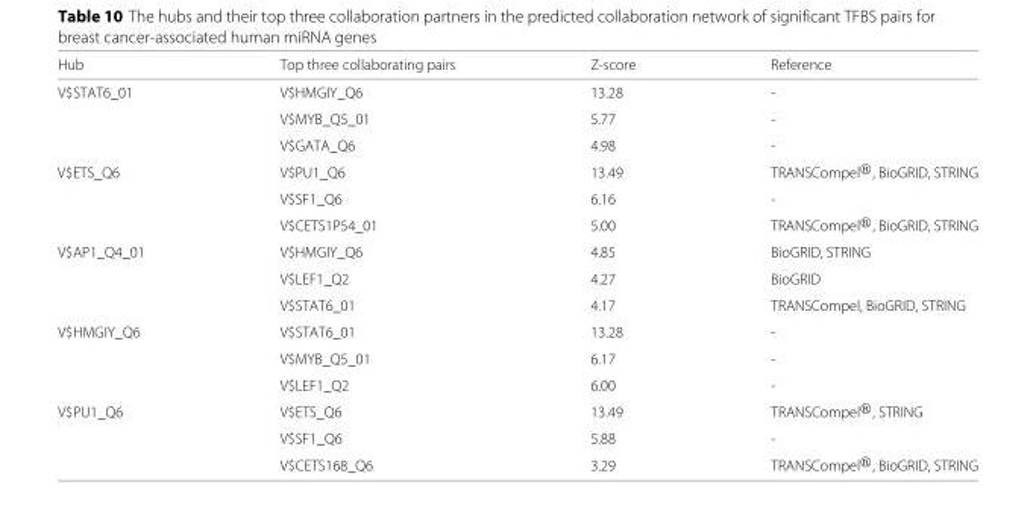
<table><thead><tr><td>Hub</td><td>Top three collaborating pairs</td><td>Z-score</td><td>Reference</td></tr></thead><tbody><tr><td rowspan="3">V$STAT6_01</td><td>V$HMGIY_Q6</td><td>13.28</td><td>-</td></tr><tr><td>V$MYB_Q5_01</td><td>5.77</td><td>-</td></tr><tr><td>V$GATA_Q6</td><td>4.98</td><td>-</td></tr><tr><td rowspan="3">V$ETS_Q6</td><td>V$PU1_Q6</td><td>13.49</td><td>TRANSCompel®, BioGRID, STRING</td></tr><tr><td>V$SF1_Q6</td><td>6.16</td><td>-</td></tr><tr><td>V$CETS1P54_01</td><td>5.00</td><td>TRANSCompel®, BioGRID, STRING</td></tr><tr><td rowspan="3">V$AP1_Q4_01</td><td>V$HMGIY_Q6</td><td>4.85</td><td>BioGRID, STRING</td></tr><tr><td>V$LEF1_Q2</td><td>4.27</td><td>BioGRID</td></tr><tr><td>V$STAT6_01</td><td>4.17</td><td>TRANSCompel, BioGRID, STRING</td></tr><tr><td rowspan="3">V$HMGIY_Q6</td><td>V$STAT6_01</td><td>13.28</td><td>-</td></tr><tr><td>V$MYB_Q5_01</td><td>6.17</td><td>-</td></tr><tr><td>V$LEF1_Q2</td><td>6.00</td><td>-</td></tr><tr><td rowspan="3">V$PU1_Q6</td><td>V$ETS_Q6</td><td>13.49</td><td>TRANSCompel®, STRING</td></tr><tr><td>V$SF1_Q6</td><td>5.88</td><td>-</td></tr><tr><td>V$CETS168_Q6</td><td>3.29</td><td>TRANSCompel®, BioGRID, STRING</td></tr></tbody></table>